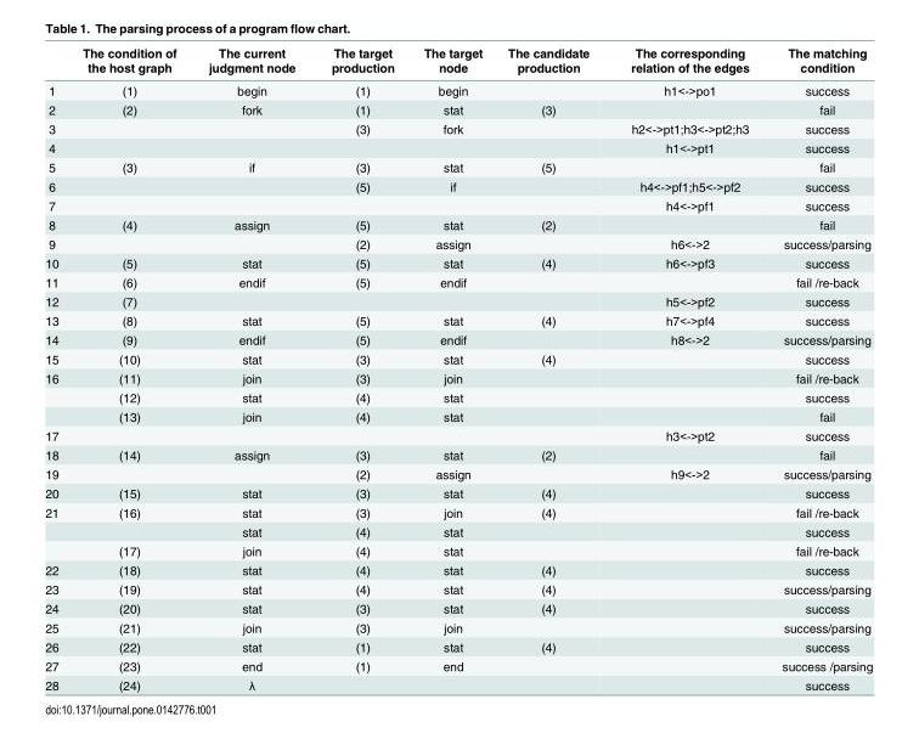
<table><thead><tr><td></td><td>The condition of the host graph</td><td>The current judgment node</td><td>The target production</td><td>The target node</td><td>The candidate production</td><td>The corresponding relation of the edges</td><td>The matching condition</td></tr></thead><tbody><tr><td>1</td><td>(1)</td><td>begin</td><td>(1)</td><td>begin</td><td></td><td>h1&lt;-&gt;po1</td><td>success</td></tr><tr><td>2</td><td>(2)</td><td>fork</td><td>(1)</td><td>stat</td><td>(3)</td><td></td><td>fail</td></tr><tr><td>3</td><td></td><td></td><td>(3)</td><td>fork</td><td></td><td>h2&lt;-&gt;pt1;h3&lt;-&gt;pt2;h3</td><td>success</td></tr><tr><td>4</td><td></td><td></td><td></td><td></td><td></td><td>h1&lt;-&gt;pt1</td><td>success</td></tr><tr><td>5</td><td>(3)</td><td>if</td><td>(3)</td><td>stat</td><td>(5)</td><td></td><td>fail</td></tr><tr><td>6</td><td></td><td></td><td>(5)</td><td>if</td><td></td><td>h4&lt;-&gt;pf1;h5&lt;-&gt;pf2</td><td>success</td></tr><tr><td>7</td><td></td><td></td><td></td><td></td><td></td><td>h4&lt;-&gt;pf1</td><td>success</td></tr><tr><td>8</td><td>(4)</td><td>assign</td><td>(5)</td><td>stat</td><td>(2)</td><td></td><td>fail</td></tr><tr><td>9</td><td></td><td></td><td>(2)</td><td>assign</td><td></td><td>h6&lt;-&gt;2</td><td>success/parsing</td></tr><tr><td>10</td><td>(5)</td><td>stat</td><td>(5)</td><td>stat</td><td>(4)</td><td>h6&lt;-&gt;pf3</td><td>success</td></tr><tr><td>11</td><td>(6)</td><td>endif</td><td>(5)</td><td>endif</td><td></td><td></td><td>fail /re-back</td></tr><tr><td>12</td><td>(7)</td><td></td><td></td><td></td><td></td><td>h5&lt;-&gt;pf2</td><td>success</td></tr><tr><td>13</td><td>(8)</td><td>stat</td><td>(5)</td><td>stat</td><td>(4)</td><td>h7&lt;-&gt;pf4</td><td>success</td></tr><tr><td>14</td><td>(9)</td><td>endif</td><td>(5)</td><td>endif</td><td></td><td>h8&lt;-&gt;2</td><td>success/parsing</td></tr><tr><td>15</td><td>(10)</td><td>stat</td><td>(3)</td><td>stat</td><td>(4)</td><td></td><td>success</td></tr><tr><td rowspan="3">16</td><td>(11)</td><td>join</td><td>(3)</td><td>join</td><td></td><td></td><td>fail /re-back</td></tr><tr><td>(12)</td><td>stat</td><td>(4)</td><td>stat</td><td></td><td></td><td>success</td></tr><tr><td>(13)</td><td>join</td><td>(4)</td><td>stat</td><td></td><td></td><td>fail</td></tr><tr><td>17</td><td></td><td></td><td></td><td></td><td></td><td>h3&lt;-&gt;pt2</td><td>success</td></tr><tr><td>18</td><td>(14)</td><td>assign</td><td>(3)</td><td>stat</td><td>(2)</td><td></td><td>fail</td></tr><tr><td>19</td><td></td><td></td><td>(2)</td><td>assign</td><td></td><td>h9&lt;-&gt;2</td><td>success/parsing</td></tr><tr><td>20</td><td>(15)</td><td>stat</td><td>(3)</td><td>stat</td><td>(4)</td><td></td><td>success</td></tr><tr><td rowspan="3">21</td><td>(16)</td><td>stat</td><td>(3)</td><td>join</td><td>(4)</td><td></td><td>fail /re-back</td></tr><tr><td></td><td>stat</td><td>(4)</td><td>stat</td><td></td><td></td><td>success</td></tr><tr><td>(17)</td><td>join</td><td>(4)</td><td>stat</td><td></td><td></td><td>fail /re-back</td></tr><tr><td>22</td><td>(18)</td><td>stat</td><td>(4)</td><td>stat</td><td>(4)</td><td></td><td>success</td></tr><tr><td>23</td><td>(19)</td><td>stat</td><td>(4)</td><td>stat</td><td>(4)</td><td></td><td>success/parsing</td></tr><tr><td>24</td><td>(20)</td><td>stat</td><td>(3)</td><td>stat</td><td>(4)</td><td></td><td>success</td></tr><tr><td>25</td><td>(21)</td><td>join</td><td>(3)</td><td>join</td><td></td><td></td><td>success/parsing</td></tr><tr><td>26</td><td>(22)</td><td>stat</td><td>(1)</td><td>stat</td><td>(4)</td><td></td><td>success</td></tr><tr><td>27</td><td>(23)</td><td>end</td><td>(1)</td><td>end</td><td></td><td></td><td>success /parsing</td></tr><tr><td>28</td><td>(24)</td><td>λ</td><td></td><td></td><td></td><td></td><td>success</td></tr></tbody></table>